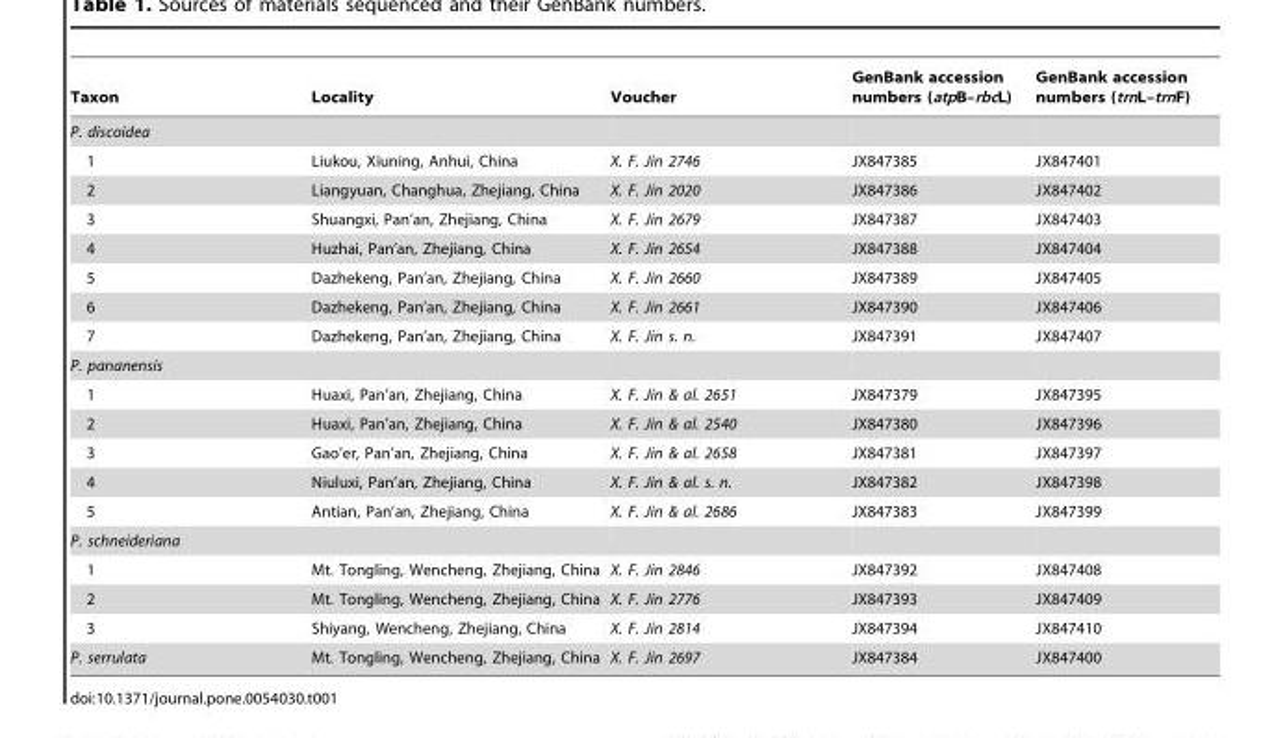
<table><thead><tr><td>Taxon</td><td>Locality</td><td>Voucher</td><td>GenBank accession numbers (atpB–rbcL)</td><td>GenBank accession numbers (trnL–trnF)</td></tr></thead><tbody><tr><td colspan="5">P. discoidea</td></tr><tr><td>1</td><td>Liukou, Xiuning, Anhui, China</td><td>X. F. Jin 2746</td><td>JX847385</td><td>JX847401</td></tr><tr><td>2</td><td>Liangyuan, Changhua, Zhejiang, China</td><td>X. F. Jin 2020</td><td>JX847386</td><td>JX847402</td></tr><tr><td>3</td><td>Shuangxi, Pan’an, Zhejiang, China</td><td>X. F. Jin 2679</td><td>JX847387</td><td>JX847403</td></tr><tr><td>4</td><td>Huzhai, Pan’an, Zhejiang, China</td><td>X. F. Jin 2654</td><td>JX847388</td><td>JX847404</td></tr><tr><td>5</td><td>Dazhekeng, Pan’an, Zhejiang, China</td><td>X. F. Jin 2660</td><td>JX847389</td><td>JX847405</td></tr><tr><td>6</td><td>Dazhekeng, Pan’an, Zhejiang, China</td><td>X. F. Jin 2661</td><td>JX847390</td><td>JX847406</td></tr><tr><td>7</td><td>Dazhekeng, Pan’an, Zhejiang, China</td><td>X. F. Jin s. n.</td><td>JX847391</td><td>JX847407</td></tr><tr><td colspan="5">P. pananensis</td></tr><tr><td>1</td><td>Huaxi, Pan’an, Zhejiang, China</td><td>X. F. Jin &amp; al. 2651</td><td>JX847379</td><td>JX847395</td></tr><tr><td>2</td><td>Huaxi, Pan’an, Zhejiang, China</td><td>X. F. Jin &amp; al. 2540</td><td>JX847380</td><td>JX847396</td></tr><tr><td>3</td><td>Gao’er, Pan’an, Zhejiang, China</td><td>X. F. Jin &amp; al. 2658</td><td>JX847381</td><td>JX847397</td></tr><tr><td>4</td><td>Niuluxi, Pan’an, Zhejiang, China</td><td>X. F. Jin &amp; al. s. n.</td><td>JX847382</td><td>JX847398</td></tr><tr><td>5</td><td>Antian, Pan’an, Zhejiang, China</td><td>X. F. Jin &amp; al. 2686</td><td>JX847383</td><td>JX847399</td></tr><tr><td colspan="5">P. schneideriana</td></tr><tr><td>1</td><td>Mt. Tongling, Wencheng, Zhejiang, China</td><td>X. F. Jin 2846</td><td>JX847392</td><td>JX847408</td></tr><tr><td>2</td><td>Mt. Tongling, Wencheng, Zhejiang, China</td><td>X. F. Jin 2776</td><td>JX847393</td><td>JX847409</td></tr><tr><td>3</td><td>Shiyang, Wencheng, Zhejiang, China</td><td>X. F. Jin 2814</td><td>JX847394</td><td>JX847410</td></tr><tr><td>P. serrulata</td><td>Mt. Tongling, Wencheng, Zhejiang, China</td><td>X. F. Jin 2697</td><td>JX847384</td><td>JX847400</td></tr></tbody></table>